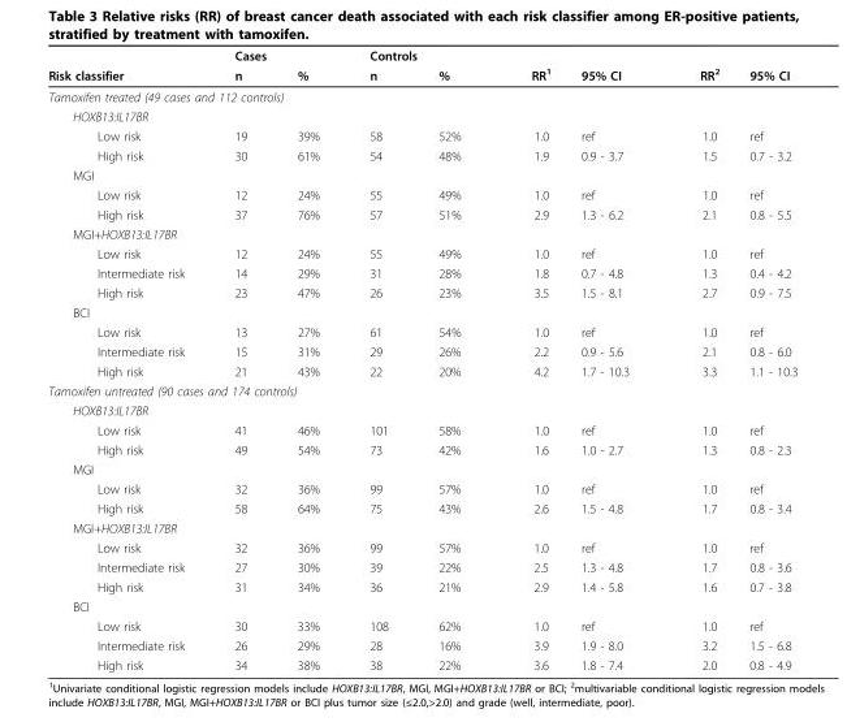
<table><thead><tr><td rowspan="2">Risk classifier</td><td colspan="2">Cases</td><td colspan="2">Controls</td><td rowspan="2">RR<sup>1</sup></td><td rowspan="2">95% CI</td><td rowspan="2">RR<sup>2</sup></td><td rowspan="2">95% CI</td></tr><tr><td>n</td><td>%</td><td>n</td><td>%</td></tr></thead><tbody><tr><td colspan="9">Tamoxifen treated (49 cases and 112 controls)</td></tr><tr><td colspan="9">HOXB13:IL17BR</td></tr><tr><td>Low risk</td><td>19</td><td>39%</td><td>58</td><td>52%</td><td>1.0</td><td>ref</td><td>1.0</td><td>ref</td></tr><tr><td>High risk</td><td>30</td><td>61%</td><td>54</td><td>48%</td><td>1.9</td><td>0.9 - 3.7</td><td>1.5</td><td>0.7 - 3.2</td></tr><tr><td colspan="9">MGI</td></tr><tr><td>Low risk</td><td>12</td><td>24%</td><td>55</td><td>49%</td><td>1.0</td><td>ref</td><td>1.0</td><td>ref</td></tr><tr><td>High risk</td><td>37</td><td>76%</td><td>57</td><td>51%</td><td>2.9</td><td>1.3 - 6.2</td><td>2.1</td><td>0.8 - 5.5</td></tr><tr><td colspan="9">MGI+HOXB13:IL17BR</td></tr><tr><td>Low risk</td><td>12</td><td>24%</td><td>55</td><td>49%</td><td>1.0</td><td>ref</td><td>1.0</td><td>ref</td></tr><tr><td>Intermediate risk</td><td>14</td><td>29%</td><td>31</td><td>28%</td><td>1.8</td><td>0.7 - 4.8</td><td>1.3</td><td>0.4 - 4.2</td></tr><tr><td>High risk</td><td>23</td><td>47%</td><td>26</td><td>23%</td><td>3.5</td><td>1.5 - 8.1</td><td>2.7</td><td>0.9 - 7.5</td></tr><tr><td colspan="9">BCI</td></tr><tr><td>Low risk</td><td>13</td><td>27%</td><td>61</td><td>54%</td><td>1.0</td><td>ref</td><td>1.0</td><td>ref</td></tr><tr><td>Intermediate risk</td><td>15</td><td>31%</td><td>29</td><td>26%</td><td>2.2</td><td>0.9 - 5.6</td><td>2.1</td><td>0.8 - 6.0</td></tr><tr><td>High risk</td><td>21</td><td>43%</td><td>22</td><td>20%</td><td>4.2</td><td>1.7 - 10.3</td><td>3.3</td><td>1.1 - 10.3</td></tr><tr><td colspan="9">Tamoxifen untreated (90 cases and 174 controls)</td></tr><tr><td colspan="9">HOXB13:IL17BR</td></tr><tr><td>Low risk</td><td>41</td><td>46%</td><td>101</td><td>58%</td><td>1.0</td><td>ref</td><td>1.0</td><td>ref</td></tr><tr><td>High risk</td><td>49</td><td>54%</td><td>73</td><td>42%</td><td>1.6</td><td>1.0 - 2.7</td><td>1.3</td><td>0.8 - 2.3</td></tr><tr><td colspan="9">MGI</td></tr><tr><td>Low risk</td><td>32</td><td>36%</td><td>99</td><td>57%</td><td>1.0</td><td>ref</td><td>1.0</td><td>ref</td></tr><tr><td>High risk</td><td>58</td><td>64%</td><td>75</td><td>43%</td><td>2.6</td><td>1.5 - 4.8</td><td>1.7</td><td>0.8 - 3.4</td></tr><tr><td colspan="9">MGI+HOXB13:IL17BR</td></tr><tr><td>Low risk</td><td>32</td><td>36%</td><td>99</td><td>57%</td><td>1.0</td><td>ref</td><td>1.0</td><td>ref</td></tr><tr><td>Intermediate risk</td><td>27</td><td>30%</td><td>39</td><td>22%</td><td>2.5</td><td>1.3 - 4.8</td><td>1.7</td><td>0.8 - 3.6</td></tr><tr><td>High risk</td><td>31</td><td>34%</td><td>36</td><td>21%</td><td>2.9</td><td>1.4 - 5.8</td><td>1.6</td><td>0.7 - 3.8</td></tr><tr><td colspan="9">BCI</td></tr><tr><td>Low risk</td><td>30</td><td>33%</td><td>108</td><td>62%</td><td>1.0</td><td>ref</td><td>1.0</td><td>ref</td></tr><tr><td>Intermediate risk</td><td>26</td><td>29%</td><td>28</td><td>16%</td><td>3.9</td><td>1.9 - 8.0</td><td>3.2</td><td>1.5 - 6.8</td></tr><tr><td>High risk</td><td>34</td><td>38%</td><td>38</td><td>22%</td><td>3.6</td><td>1.8 - 7.4</td><td>2.0</td><td>0.8 - 4.9</td></tr></tbody></table>